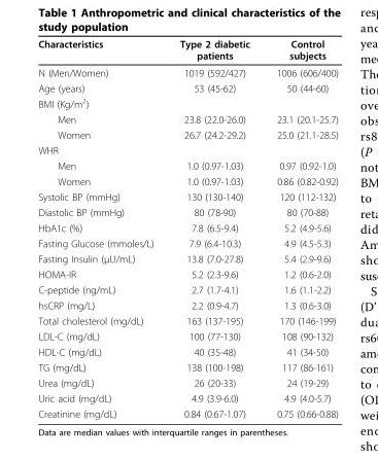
<table><thead><tr><td>Characteristics</td><td>Type 2 diabetic patients</td><td>Control subjects</td></tr></thead><tbody><tr><td>N (Men/Women)</td><td>1019 (592/427)</td><td>1006 (606/400)</td></tr><tr><td>Age (years)</td><td>53 (45-62)</td><td>50 (44-60)</td></tr><tr><td colspan="3">BMI (Kg/m<sup>2</sup>)</td></tr><tr><td>Men</td><td>23.8 (22.0-26.0)</td><td>23.1 (20.1-25.7)</td></tr><tr><td>Women</td><td>26.7 (24.2-29.2)</td><td>25.0 (21.1-28.5)</td></tr><tr><td colspan="3">WHR</td></tr><tr><td>Men</td><td>1.0 (0.97-1.03)</td><td>0.97 (0.92-1.0)</td></tr><tr><td>Women</td><td>1.0 (0.97-1.03)</td><td>0.86 (0.82-0.92)</td></tr><tr><td>Systolic BP (mmHg)</td><td>130 (130-140)</td><td>120 (112-132)</td></tr><tr><td>Diastolic BP (mmHg)</td><td>80 (78-90)</td><td>80 (70-88)</td></tr><tr><td>HbA1c (%)</td><td>7.8 (6.5-9.4)</td><td>5.2 (4.9-5.6)</td></tr><tr><td>Fasting Glucose (mmoles/L)</td><td>7.9 (6.4-10.3)</td><td>4.9 (4.5-5.3)</td></tr><tr><td>Fasting Insulin (μU/mL)</td><td>13.8 (7.0-27.8)</td><td>5.4 (2.9-9.6)</td></tr><tr><td>HOMA-IR</td><td>5.2 (2.3-9.6)</td><td>1.2 (0.6-2.0)</td></tr><tr><td>C-peptide (ng/mL)</td><td>2.7 (1.7-4.1)</td><td>1.6 (1.1-2.2)</td></tr><tr><td>hsCRP (mg/L)</td><td>2.2 (0.9-4.7)</td><td>1.3 (0.6-3.0)</td></tr><tr><td>Total cholesterol (mg/dL)</td><td>163 (137-195)</td><td>170 (146-199)</td></tr><tr><td>LDL-C (mg/dL)</td><td>100 (77-130)</td><td>108 (90-132)</td></tr><tr><td>HDL-C (mg/dL)</td><td>40 (35-48)</td><td>41 (34-50)</td></tr><tr><td>TG (mg/dL)</td><td>138 (100-198)</td><td>117 (86-161)</td></tr><tr><td>Urea (mg/dL)</td><td>26 (20-33)</td><td>24 (19-29)</td></tr><tr><td>Uric acid (mg/dL)</td><td>4.9 (3.9-6.0)</td><td>4.9 (4.0-5.7)</td></tr><tr><td>Creatinine (mg/dL)</td><td>0.84 (0.67-1.07)</td><td>0.75 (0.66-0.88)</td></tr></tbody></table>